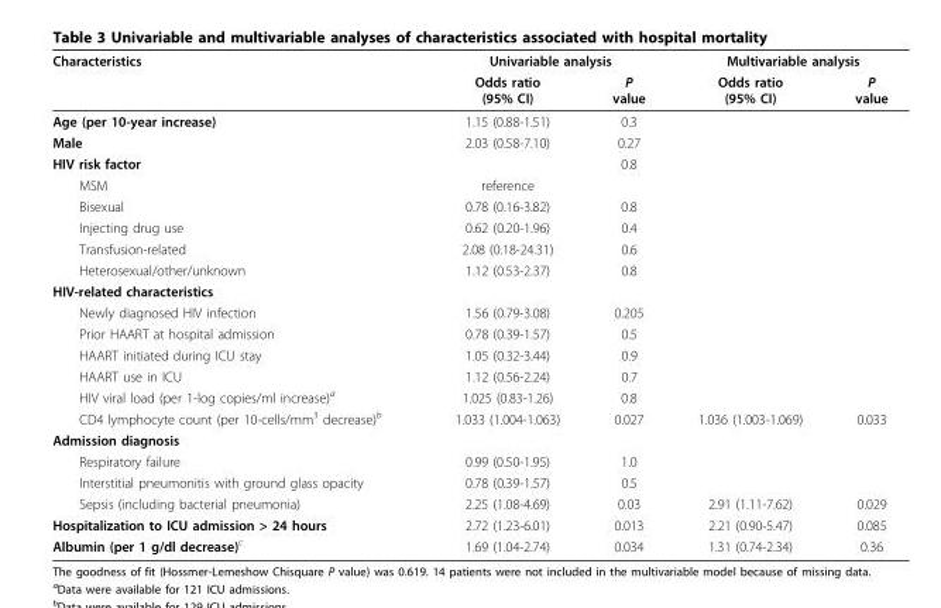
<table><thead><tr><td rowspan="2">Characteristics</td><td colspan="2">Univariable analysis</td><td colspan="2">Multivariable analysis</td></tr><tr><td>Odds ratio (95% CI)</td><td>P value</td><td>Odds ratio (95% CI)</td><td>P value</td></tr></thead><tbody><tr><td>Age (per 10-year increase)</td><td>1.15 (0.88-1.51)</td><td>0.3</td><td></td><td></td></tr><tr><td>Male</td><td>2.03 (0.58-7.10)</td><td>0.27</td><td></td><td></td></tr><tr><td>HIV risk factor</td><td></td><td>0.8</td><td></td><td></td></tr><tr><td>MSM</td><td>reference</td><td></td><td></td><td></td></tr><tr><td>Bisexual</td><td>0.78 (0.16-3.82)</td><td>0.8</td><td></td><td></td></tr><tr><td>Injecting drug use</td><td>0.62 (0.20-1.96)</td><td>0.4</td><td></td><td></td></tr><tr><td>Transfusion-related</td><td>2.08 (0.18-24.31)</td><td>0.6</td><td></td><td></td></tr><tr><td>Heterosexual/other/unknown</td><td>1.12 (0.53-2.37)</td><td>0.8</td><td></td><td></td></tr><tr><td colspan="5">HIV-related characteristics</td></tr><tr><td>Newly diagnosed HIV infection</td><td>1.56 (0.79-3.08)</td><td>0.205</td><td></td><td></td></tr><tr><td>Prior HAART at hospital admission</td><td>0.78 (0.39-1.57)</td><td>0.5</td><td></td><td></td></tr><tr><td>HAART initiated during ICU stay</td><td>1.05 (0.32-3.44)</td><td>0.9</td><td></td><td></td></tr><tr><td>HAART use in ICU</td><td>1.12 (0.56-2.24)</td><td>0.7</td><td></td><td></td></tr><tr><td>HIV viral load (per 1-log copies/ml increase)<sup>a</sup></td><td>1.025 (0.83-1.26)</td><td>0.8</td><td></td><td></td></tr><tr><td>CD4 lymphocyte count (per 10-cells/mm<sup>3</sup> decrease)<sup>b</sup></td><td>1.033 (1.004-1.063)</td><td>0.027</td><td>1.036 (1.003-1.069)</td><td>0.033</td></tr><tr><td colspan="5">Admission diagnosis</td></tr><tr><td>Respiratory failure</td><td>0.99 (0.50-1.95)</td><td>1.0</td><td></td><td></td></tr><tr><td>Interstitial pneumonitis with ground glass opacity</td><td>0.78 (0.39-1.57)</td><td>0.5</td><td></td><td></td></tr><tr><td>Sepsis (including bacterial pneumonia)</td><td>2.25 (1.08-4.69)</td><td>0.03</td><td>2.91 (1.11-7.62)</td><td>0.029</td></tr><tr><td>Hospitalization to ICU admission &gt; 24 hours</td><td>2.72 (1.23-6.01)</td><td>0.013</td><td>2.21 (0.90-5.47)</td><td>0.085</td></tr><tr><td>Albumin (per 1 g/dl decrease)<sup>c</sup></td><td>1.69 (1.04-2.74)</td><td>0.034</td><td>1.31 (0.74-2.34)</td><td>0.36</td></tr></tbody></table>